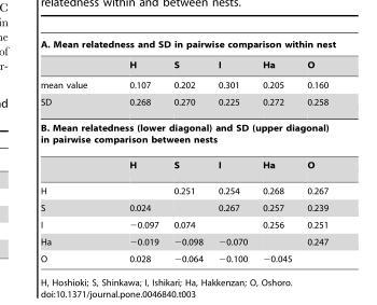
<table><thead><tr><td colspan="6">A. Mean relatedness and SD in pairwise comparison within nest</td></tr><tr><td></td><td>H</td><td>S</td><td>I</td><td>Ha</td><td>O</td></tr></thead><tbody><tr><td>mean value</td><td>0.107</td><td>0.202</td><td>0.301</td><td>0.205</td><td>0.160</td></tr><tr><td>SD</td><td>0.268</td><td>0.270</td><td>0.225</td><td>0.272</td><td>0.258</td></tr><tr><td colspan="6">B. Mean relatedness (lower diagonal) and SD (upper diagonal) in pairwise comparison between nests</td></tr><tr><td></td><td>H</td><td>S</td><td>I</td><td>Ha</td><td>O</td></tr><tr><td>H</td><td></td><td>0.251</td><td>0.254</td><td>0.268</td><td>0.267</td></tr><tr><td>S</td><td>0.024</td><td></td><td>0.267</td><td>0.257</td><td>0.239</td></tr><tr><td>I</td><td>−0.097</td><td>0.074</td><td></td><td>0.256</td><td>0.251</td></tr><tr><td>Ha</td><td>−0.019</td><td>−0.098</td><td>−0.070</td><td></td><td>0.247</td></tr><tr><td>O</td><td>0.028</td><td>−0.064</td><td>−0.100</td><td>−0.045</td><td></td></tr></tbody></table>